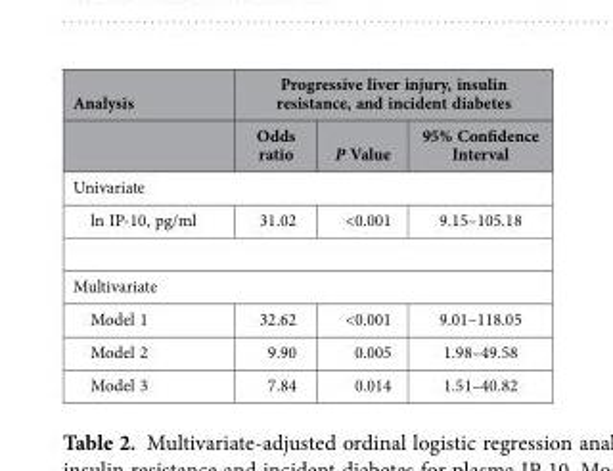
<table><thead><tr><td rowspan="2">Analysis</td><td colspan="3">Progressive liver injury, insulin resistance, and incident diabetes</td></tr><tr><td>Odds ratio</td><td>P Value</td><td>95% Confidence Interval</td></tr></thead><tbody><tr><td colspan="4">Univariate</td></tr><tr><td>ln IP-10, pg/ml</td><td>31.02</td><td>&lt;0.001</td><td>9.15–105.18</td></tr><tr><td colspan="4">Multivariate</td></tr><tr><td>Model 1</td><td>32.62</td><td>&lt;0.001</td><td>9.01–118.05</td></tr><tr><td>Model 2</td><td>9.90</td><td>0.005</td><td>1.98–49.58</td></tr><tr><td>Model 3</td><td>7.84</td><td>0.014</td><td>1.51–40.82</td></tr></tbody></table>